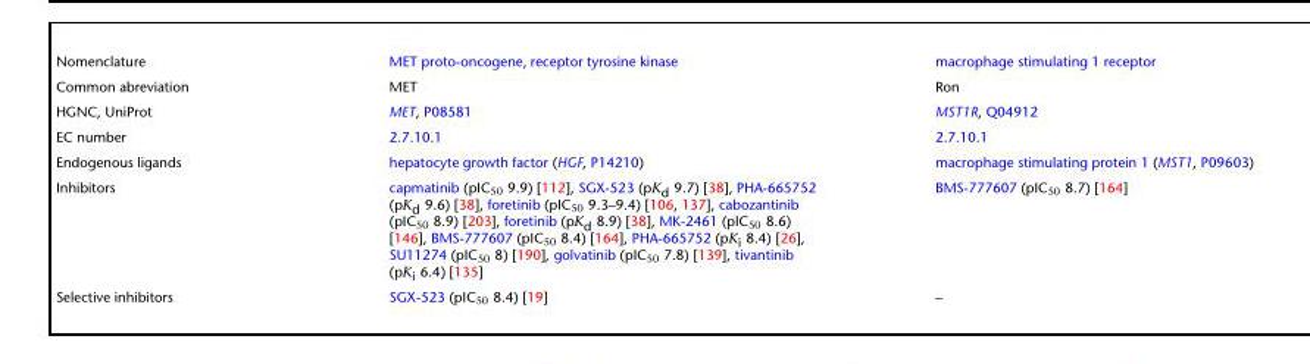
<table><tbody><tr><td>Nomenclature</td><td>MET proto-oncogene, receptor tyrosine kinase</td><td>macrophage stimulating 1 receptor</td></tr><tr><td>Common abreviation</td><td>MET</td><td>Ron</td></tr><tr><td>HGNC, UniProt</td><td>MET, P08581</td><td>MST1R, Q04912</td></tr><tr><td>EC number</td><td>2.7.10.1</td><td>2.7.10.1</td></tr><tr><td>Endogenous ligands</td><td>hepatocyte growth factor (HGF, P14210)</td><td>macrophage stimulating protein 1 (MST1, P09603)</td></tr><tr><td>Inhibitors</td><td>capmatinib (pIC<sub>50</sub> 9.9) [112], SGX-523 (pK<sub>d</sub> 9.7) [38], PHA-665752 (pK<sub>d</sub> 9.6) [38], foretinib (pIC<sub>50</sub> 9.3–9.4) [106, 137], cabozantinib (pIC<sub>50</sub> 8.9) [203], foretinib (pK<sub>d</sub> 8.9) [38], MK-2461 (pIC<sub>50</sub> 8.6) [146], BMS-777607 (pIC<sub>50</sub> 8.4) [164], PHA-665752 (pK<sub>i</sub> 8.4) [26], SU11274 (pIC<sub>50</sub> 8) [190], golvatinib (pIC<sub>50</sub> 7.8) [139], tivantinib (pK<sub>i</sub> 6.4) [135]</td><td>BMS-777607 (pIC<sub>50</sub> 8.7) [164]</td></tr><tr><td>Selective inhibitors</td><td>SGX-523 (pIC<sub>50</sub> 8.4) [19]</td><td>–</td></tr></tbody></table>